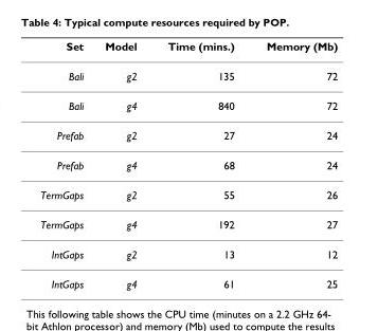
<table><thead><tr><td>Set</td><td>Model</td><td>Time (mins.)</td><td>Memory (Mb)</td></tr></thead><tbody><tr><td>Bali</td><td>g2</td><td>135</td><td>72</td></tr><tr><td>Bali</td><td>g4</td><td>840</td><td>72</td></tr><tr><td>Prefab</td><td>g2</td><td>27</td><td>24</td></tr><tr><td>Prefab</td><td>g4</td><td>68</td><td>24</td></tr><tr><td>TermGaps</td><td>g2</td><td>55</td><td>26</td></tr><tr><td>TermGaps</td><td>g4</td><td>192</td><td>27</td></tr><tr><td>IntGaps</td><td>g2</td><td>13</td><td>12</td></tr><tr><td>IntGaps</td><td>g4</td><td>61</td><td>25</td></tr></tbody></table>